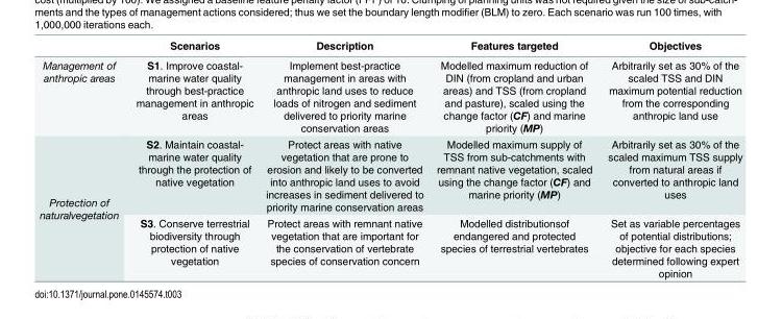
<table><thead><tr><td></td><td>Scenarios</td><td>Description</td><td>Features targeted</td><td>Objectives</td></tr></thead><tbody><tr><td>Management of anthropic areas</td><td>S1. Improve coastal- marine water quality through best-practice management in anthropic areas</td><td>Implement best-practice management in areas with anthropic land uses to reduce loads of nitrogen and sediment delivered to priority marine conservation areas</td><td>Modelled maximum reduction of DIN (from cropland and urban areas) and TSS (from cropland and pasture), scaled using the change factor (CF) and marine priority (MP)</td><td>Arbitrarily set as 30% of the scaled TSS and DIN maximum potential reduction from the corresponding anthropic land use</td></tr><tr><td rowspan="2">Protection of naturalvegetation</td><td>S2. Maintain coastal- marine water quality through the protection of native vegetation</td><td>Protect areas with native vegetation that are prone to erosion and likely to be converted into anthropic land uses to avoid increases in sediment delivered to priority marine conservation areas</td><td>Modelled maximum supply of TSS from sub-catchments with remnant native vegetation, scaled using the change factor (CF) and marine priority (MP)</td><td>Arbitrarily set as 30% of the scaled maximum TSS supply from natural areas if converted to anthropic land uses</td></tr><tr><td>S3. Conserve terrestrial biodiversity through protection of native vegetation</td><td>Protect areas with remnant native vegetation that are important for the conservation of vertebrate species of conservation concern</td><td>Modelled distributionsof endangered and protected species of terrestrial vertebrates</td><td>Set as variable percentages of potential distributions; objective for each species determined following expert opinion</td></tr></tbody></table>